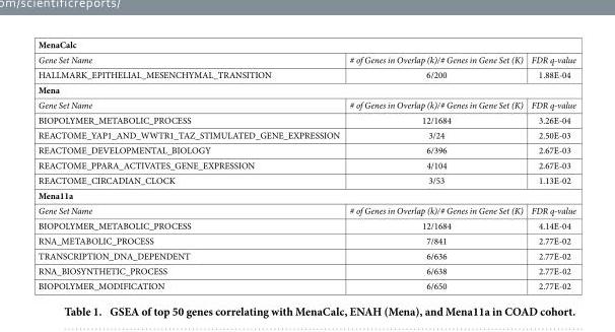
<table><tbody><tr><td colspan="3">MenaCalc</td></tr><tr><td>Gene Set Name</td><td># of Genes in Overlap (k)/# Genes in Gene Set (K)</td><td>FDR q-value</td></tr><tr><td>HALLMARK_EPITHELIAL_MESENCHYMAL_TRANSITION</td><td>6/200</td><td>1.88E-04</td></tr><tr><td colspan="3">Mena</td></tr><tr><td>Gene Set Name</td><td># of Genes in Overlap (k)/# Genes in Gene Set (K)</td><td>FDR q-value</td></tr><tr><td>BIOPOLYMER_METABOLIC_PROCESS</td><td>12/1684</td><td>3.26E-04</td></tr><tr><td>REACTOME_YAP1_AND_WWTR1_TAZ_STIMULATED_GENE_EXPRESSION</td><td>3/24</td><td>2.50E-03</td></tr><tr><td>REACTOME_DEVELOPMENTAL_BIOLOGY</td><td>6/396</td><td>2.67E-03</td></tr><tr><td>REACTOME_PPARA_ACTIVATES_GENE_EXPRESSION</td><td>4/104</td><td>2.67E-03</td></tr><tr><td>REACTOME_CIRCADIAN_CLOCK</td><td>3/53</td><td>1.13E-02</td></tr><tr><td colspan="3">Mena11a</td></tr><tr><td>Gene Set Name</td><td># of Genes in Overlap (k)/# Genes in Gene Set (K)</td><td>FDR q-value</td></tr><tr><td>BIOPOLYMER_METABOLIC_PROCESS</td><td>12/1684</td><td>4.14E-04</td></tr><tr><td>RNA_METABOLIC_PROCESS</td><td>7/841</td><td>2.77E-02</td></tr><tr><td>TRANSCRIPTION_DNA_DEPENDENT</td><td>6/636</td><td>2.77E-02</td></tr><tr><td>RNA_BIOSYNTHETIC_PROCESS</td><td>6/638</td><td>2.77E-02</td></tr><tr><td>BIOPOLYMER_MODIFICATION</td><td>6/650</td><td>2.77E-02</td></tr></tbody></table>